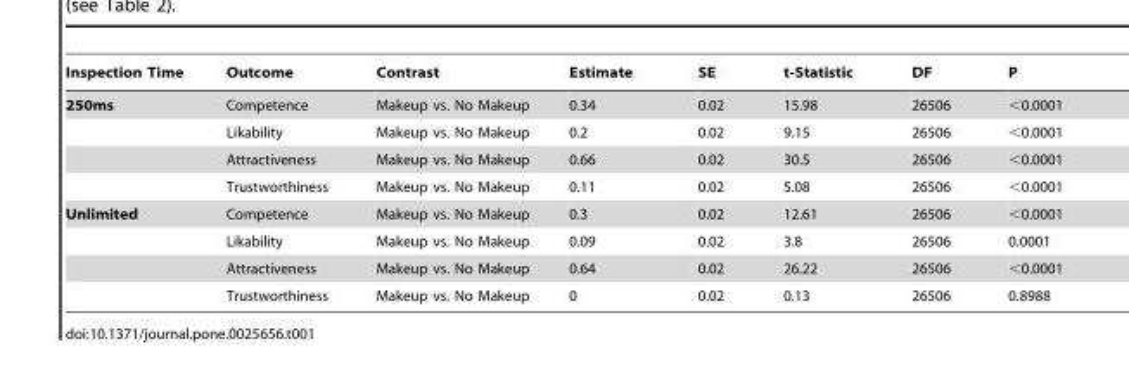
<table><thead><tr><td>Inspection Time</td><td>Outcome</td><td>Contrast</td><td>Estimate</td><td>SE</td><td>t-Statistic</td><td>DF</td><td>P</td></tr></thead><tbody><tr><td rowspan="4">250ms</td><td>Competence</td><td>Makeup vs. No Makeup</td><td>0.34</td><td>0.02</td><td>15.98</td><td>26506</td><td>&lt;0.0001</td></tr><tr><td>Likability</td><td>Makeup vs. No Makeup</td><td>0.2</td><td>0.02</td><td>9.15</td><td>26506</td><td>&lt;0.0001</td></tr><tr><td>Attractiveness</td><td>Makeup vs. No Makeup</td><td>0.66</td><td>0.02</td><td>30.5</td><td>26506</td><td>&lt;0.0001</td></tr><tr><td>Trustworthiness</td><td>Makeup vs. No Makeup</td><td>0.11</td><td>0.02</td><td>5.08</td><td>26506</td><td>&lt;0.0001</td></tr><tr><td rowspan="4">Unlimited</td><td>Competence</td><td>Makeup vs. No Makeup</td><td>0.3</td><td>0.02</td><td>12.61</td><td>26506</td><td>&lt;0.0001</td></tr><tr><td>Likability</td><td>Makeup vs. No Makeup</td><td>0.09</td><td>0.02</td><td>3.8</td><td>26506</td><td>0.0001</td></tr><tr><td>Attractiveness</td><td>Makeup vs. No Makeup</td><td>0.64</td><td>0.02</td><td>26.22</td><td>26506</td><td>&lt;0.0001</td></tr><tr><td>Trustworthiness</td><td>Makeup vs. No Makeup</td><td>0</td><td>0.02</td><td>0.13</td><td>26506</td><td>0.8988</td></tr></tbody></table>